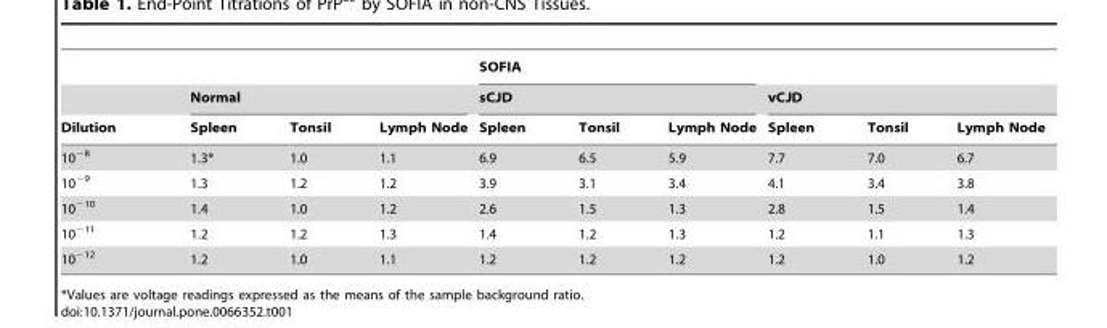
<table><thead><tr><td rowspan="3">Dilution</td><td></td><td></td><td></td><td rowspan="2" colspan="3">SOFIA sCJD</td><td></td><td></td><td></td></tr><tr><td colspan="3">Normal</td><td colspan="3">vCJD</td></tr><tr><td>Spleen</td><td>Tonsil</td><td>Lymph Node</td><td>Spleen</td><td>Tonsil</td><td>Lymph Node</td><td>Spleen</td><td>Tonsil</td><td>Lymph Node</td></tr></thead><tbody><tr><td>10<sup>−8</sup></td><td>1.3*</td><td>1.0</td><td>1.1</td><td>6.9</td><td>6.5</td><td>5.9</td><td>7.7</td><td>7.0</td><td>6.7</td></tr><tr><td>10<sup>−9</sup></td><td>1.3</td><td>1.2</td><td>1.2</td><td>3.9</td><td>3.1</td><td>3.4</td><td>4.1</td><td>3.4</td><td>3.8</td></tr><tr><td>10<sup>−10</sup></td><td>1.4</td><td>1.0</td><td>1.2</td><td>2.6</td><td>1.5</td><td>1.3</td><td>2.8</td><td>1.5</td><td>1.4</td></tr><tr><td>10<sup>−11</sup></td><td>1.2</td><td>1.2</td><td>1.3</td><td>1.4</td><td>1.2</td><td>1.3</td><td>1.2</td><td>1.1</td><td>1.3</td></tr><tr><td>10<sup>−12</sup></td><td>1.2</td><td>1.0</td><td>1.1</td><td>1.2</td><td>1.2</td><td>1.2</td><td>1.2</td><td>1.0</td><td>1.2</td></tr></tbody></table>